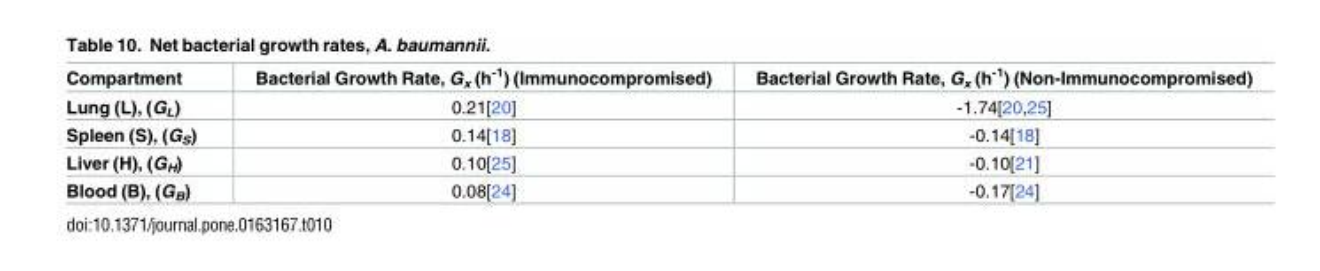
<table><thead><tr><td>Compartment</td><td>Bacterial Growth Rate, G<sub>x</sub> (h<sup>-1</sup>) (Immunocompromised)</td><td>Bacterial Growth Rate, G<sub>x</sub> (h<sup>-1</sup>) (Non-Immunocompromised)</td></tr></thead><tbody><tr><td>Lung (L), (G<sub>L</sub>)</td><td>0.21[20]</td><td>-1.74[20,25]</td></tr><tr><td>Spleen (S), (G<sub>S</sub>)</td><td>0.14[18]</td><td>-0.14[18]</td></tr><tr><td>Liver (H), (G<sub>H</sub>)</td><td>0.10[25]</td><td>-0.10[21]</td></tr><tr><td>Blood (B), (G<sub>B</sub>)</td><td>0.08[24]</td><td>-0.17[24]</td></tr></tbody></table>